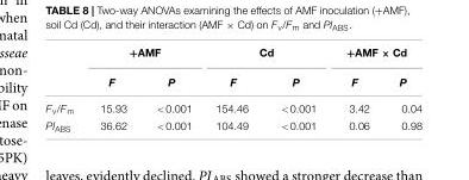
<table><thead><tr><td rowspan="2"></td><td colspan="2">+AMF</td><td colspan="2">Cd</td><td colspan="2">+AMF × Cd</td></tr><tr><td>F</td><td>P</td><td>F</td><td>P</td><td>F</td><td>P</td></tr></thead><tbody><tr><td>F<sub>v</sub>/F<sub>m</sub></td><td>15.93</td><td>&lt;0.001</td><td>154.46</td><td>&lt;0.001</td><td>3.42</td><td>0.04</td></tr><tr><td>PI<sub>ABS</sub></td><td>36.62</td><td>&lt;0.001</td><td>104.49</td><td>&lt;0.001</td><td>0.06</td><td>0.98</td></tr></tbody></table>